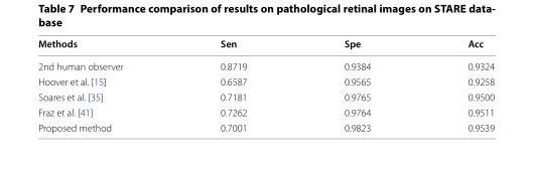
<table><thead><tr><td>Methods</td><td>Sen</td><td>Spe</td><td>Acc</td></tr></thead><tbody><tr><td>2nd human observer</td><td>0.8719</td><td>0.9384</td><td>0.9324</td></tr><tr><td>Hoover et al. [15]</td><td>0.6587</td><td>0.9565</td><td>0.9258</td></tr><tr><td>Soares et al. [35]</td><td>0.7181</td><td>0.9765</td><td>0.9500</td></tr><tr><td>Fraz et al. [41]</td><td>0.7262</td><td>0.9764</td><td>0.9511</td></tr><tr><td>Proposed method</td><td>0.7001</td><td>0.9823</td><td>0.9539</td></tr></tbody></table>